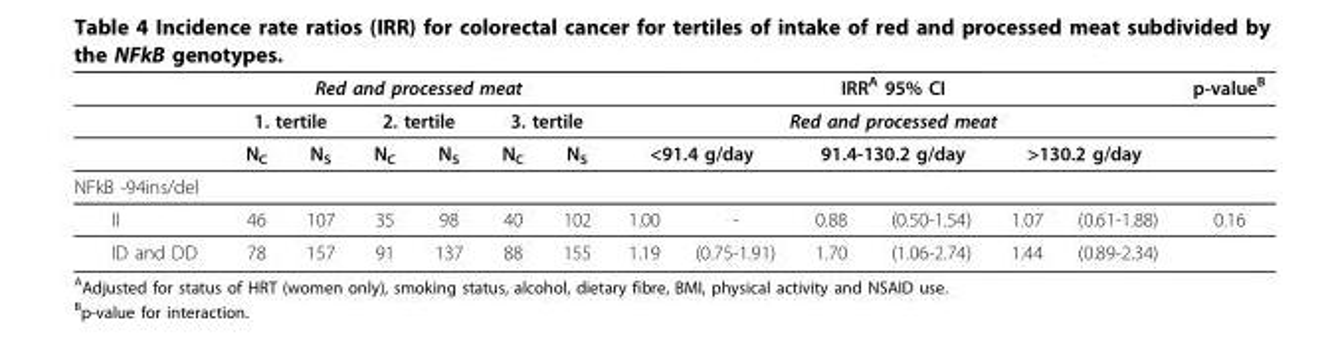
<table><thead><tr><td rowspan="4">NFkB -94ins/del</td><td colspan="6">Red and processed meat</td><td rowspan="2" colspan="6">IRRA 95% CI Red and processed meat</td><td rowspan="4">p-valueB</td></tr><tr><td colspan="2">1. tertile</td><td colspan="2">2. tertile</td><td colspan="2">3. tertile</td></tr><tr><td rowspan="2">NC</td><td rowspan="2">NS</td><td rowspan="2">NC</td><td rowspan="2">NS</td><td rowspan="2">NC</td><td rowspan="2">NS</td><td colspan="2">&lt;91.4 g/day</td><td colspan="2">91.4-130.2 g/day</td><td colspan="2">&gt;130.2 g/day</td></tr><tr><td></td><td></td><td></td><td></td><td></td><td></td></tr></thead><tbody><tr><td>II</td><td>46</td><td>107</td><td>35</td><td>98</td><td>40</td><td>102</td><td>1.00</td><td>-</td><td>0.88</td><td>(0.50-1.54)</td><td>1.07</td><td>(0.61-1.88)</td><td>0.16</td></tr><tr><td>ID and DD</td><td>78</td><td>157</td><td>91</td><td>137</td><td>88</td><td>155</td><td>1.19</td><td>(0.75-1.91)</td><td>1.70</td><td>(1.06-2.74)</td><td>1.44</td><td>(0.89-2.34)</td><td></td></tr></tbody></table>